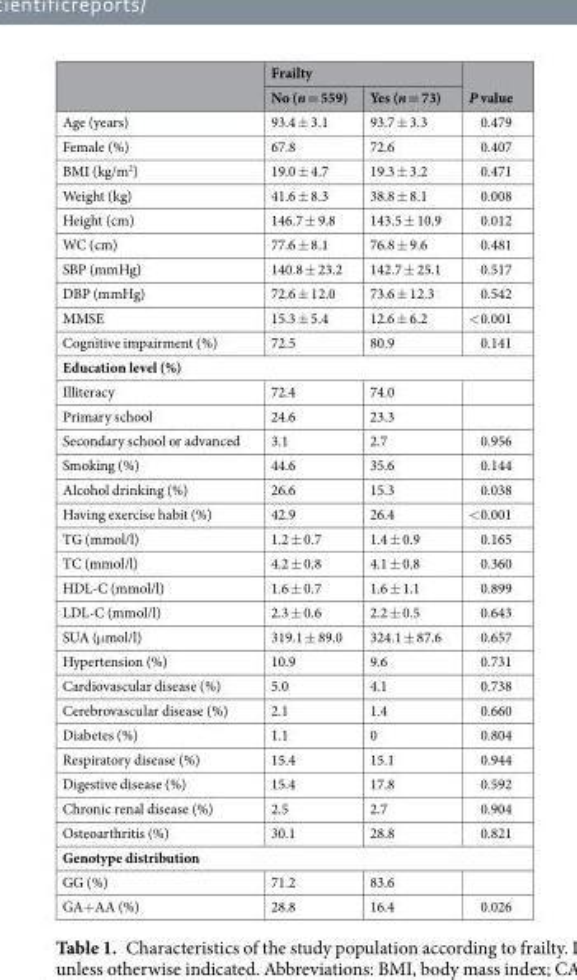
<table><thead><tr><td rowspan="2"></td><td colspan="2">Frailty</td><td rowspan="2">P value</td></tr><tr><td>No (n = 559)</td><td>Yes (n = 73)</td></tr></thead><tbody><tr><td>Age (years)</td><td>93.4 ± 3.1</td><td>93.7 ± 3.3</td><td>0.479</td></tr><tr><td>Female (%)</td><td>67.8</td><td>72.6</td><td>0.407</td></tr><tr><td>BMI (kg/m<sup>2</sup>)</td><td>19.0 ± 4.7</td><td>19.3 ± 3.2</td><td>0.471</td></tr><tr><td>Weight (kg)</td><td>41.6 ± 8.3</td><td>38.8 ± 8.1</td><td>0.008</td></tr><tr><td>Height (cm)</td><td>146.7 ± 9.8</td><td>143.5 ± 10.9</td><td>0.012</td></tr><tr><td>WC (cm)</td><td>77.6 ± 8.1</td><td>76.8 ± 9.6</td><td>0.481</td></tr><tr><td>SBP (mmHg)</td><td>140.8 ± 23.2</td><td>142.7 ± 25.1</td><td>0.517</td></tr><tr><td>DBP (mmHg)</td><td>72.6 ± 12.0</td><td>73.6 ± 12.3</td><td>0.542</td></tr><tr><td>MMSE</td><td>15.3 ± 5.4</td><td>12.6 ± 6.2</td><td>&lt;0.001</td></tr><tr><td>Cognitive impairment (%)</td><td>72.5</td><td>80.9</td><td>0.141</td></tr><tr><td colspan="4">Education level (%)</td></tr><tr><td>Illiteracy</td><td>72.4</td><td>74.0</td><td></td></tr><tr><td>Primary school</td><td>24.6</td><td>23.3</td><td></td></tr><tr><td>Secondary school or advanced</td><td>3.1</td><td>2.7</td><td>0.956</td></tr><tr><td>Smoking (%)</td><td>44.6</td><td>35.6</td><td>0.144</td></tr><tr><td>Alcohol drinking (%)</td><td>26.6</td><td>15.3</td><td>0.038</td></tr><tr><td>Having exercise habit (%)</td><td>42.9</td><td>26.4</td><td>&lt;0.001</td></tr><tr><td>TG (mmol/l)</td><td>1.2 ± 0.7</td><td>1.4 ± 0.9</td><td>0.165</td></tr><tr><td>TC (mmol/l)</td><td>4.2 ± 0.8</td><td>4.1 ± 0.8</td><td>0.360</td></tr><tr><td>HDL-C (mmol/l)</td><td>1.6 ± 0.7</td><td>1.6 ± 1.1</td><td>0.899</td></tr><tr><td>LDL-C (mmol/l)</td><td>2.3 ± 0.6</td><td>2.2 ± 0.5</td><td>0.643</td></tr><tr><td>SUA (μmol/l)</td><td>319.1 ± 89.0</td><td>324.1 ± 87.6</td><td>0.657</td></tr><tr><td>Hypertension (%)</td><td>10.9</td><td>9.6</td><td>0.731</td></tr><tr><td>Cardiovascular disease (%)</td><td>5.0</td><td>4.1</td><td>0.738</td></tr><tr><td>Cerebrovascular disease (%)</td><td>2.1</td><td>1.4</td><td>0.660</td></tr><tr><td>Diabetes (%)</td><td>1.1</td><td>0</td><td>0.804</td></tr><tr><td>Respiratory disease (%)</td><td>15.4</td><td>15.1</td><td>0.944</td></tr><tr><td>Digestive disease (%)</td><td>15.4</td><td>17.8</td><td>0.592</td></tr><tr><td>Chronic renal disease (%)</td><td>2.5</td><td>2.7</td><td>0.904</td></tr><tr><td>Osteoarthritis (%)</td><td>30.1</td><td>28.8</td><td>0.821</td></tr><tr><td colspan="4">Genotype distribution</td></tr><tr><td>GG (%)</td><td>71.2</td><td>83.6</td><td></td></tr><tr><td>GA+AA (%)</td><td>28.8</td><td>16.4</td><td>0.026</td></tr></tbody></table>